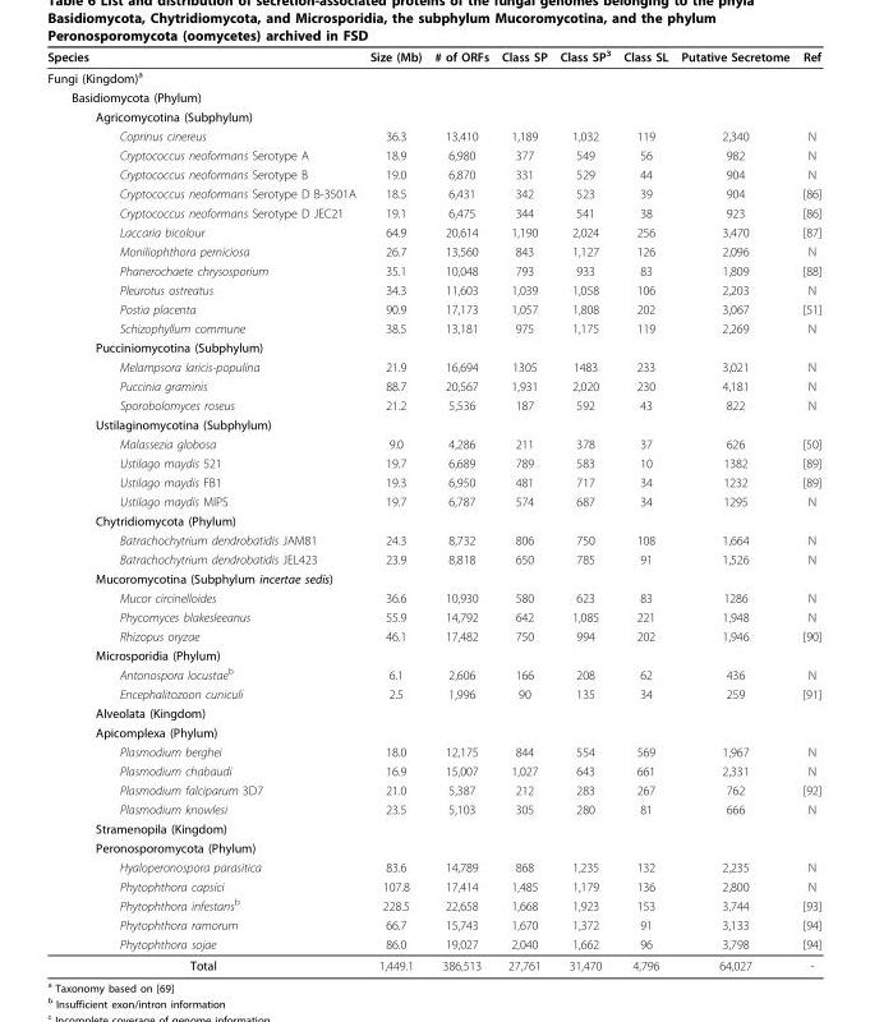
<table><thead><tr><td>Species</td><td>Size (Mb)</td><td># of ORFs</td><td>Class SP</td><td>Class SP<sup>3</sup></td><td>Class SL</td><td>Putative Secretome</td><td>Ref</td></tr></thead><tbody><tr><td colspan="8">Fungi (Kingdom)<sup>a</sup></td></tr><tr><td colspan="8">Basidiomycota (Phylum)</td></tr><tr><td colspan="8">Agricomycotina (Subphylum)</td></tr><tr><td>Coprinus cinereus</td><td>36.3</td><td>13,410</td><td>1,189</td><td>1,032</td><td>119</td><td>2,340</td><td>N</td></tr><tr><td>Cryptococcus neoformans Serotype A</td><td>18.9</td><td>6,980</td><td>377</td><td>549</td><td>56</td><td>982</td><td>N</td></tr><tr><td>Cryptococcus neoformans Serotype B</td><td>19.0</td><td>6,870</td><td>331</td><td>529</td><td>44</td><td>904</td><td>N</td></tr><tr><td>Cryptococcus neoformans Serotype D B-3501A</td><td>18.5</td><td>6,431</td><td>342</td><td>523</td><td>39</td><td>904</td><td>[86]</td></tr><tr><td>Cryptococcus neoformans Serotype D JEC21</td><td>19.1</td><td>6,475</td><td>344</td><td>541</td><td>38</td><td>923</td><td>[86]</td></tr><tr><td>Laccaria bicolour</td><td>64.9</td><td>20,614</td><td>1,190</td><td>2,024</td><td>256</td><td>3,470</td><td>[87]</td></tr><tr><td>Moniliophthora perniciosa</td><td>26.7</td><td>13,560</td><td>843</td><td>1,127</td><td>126</td><td>2,096</td><td>N</td></tr><tr><td>Phanerochaete chrysosporium</td><td>35.1</td><td>10,048</td><td>793</td><td>933</td><td>83</td><td>1,809</td><td>[88]</td></tr><tr><td>Pleurotus ostreatus</td><td>34.3</td><td>11,603</td><td>1,039</td><td>1,058</td><td>106</td><td>2,203</td><td>N</td></tr><tr><td>Postia placenta</td><td>90.9</td><td>17,173</td><td>1,057</td><td>1,808</td><td>202</td><td>3,067</td><td>[51]</td></tr><tr><td>Schizophyllum commune</td><td>38.5</td><td>13,181</td><td>975</td><td>1,175</td><td>119</td><td>2,269</td><td>N</td></tr><tr><td colspan="8">Pucciniomycotina (Subphylum)</td></tr><tr><td>Melampsora laricis-populina</td><td>21.9</td><td>16,694</td><td>1305</td><td>1483</td><td>233</td><td>3,021</td><td>N</td></tr><tr><td>Puccinia graminis</td><td>88.7</td><td>20,567</td><td>1,931</td><td>2,020</td><td>230</td><td>4,181</td><td>N</td></tr><tr><td>Sporobolomyces roseus</td><td>21.2</td><td>5,536</td><td>187</td><td>592</td><td>43</td><td>822</td><td>N</td></tr><tr><td colspan="8">Ustilaginomycotina (Subphylum)</td></tr><tr><td>Malassezia globosa</td><td>9.0</td><td>4,286</td><td>211</td><td>378</td><td>37</td><td>626</td><td>[50]</td></tr><tr><td>Ustilago maydis 521</td><td>19.7</td><td>6,689</td><td>789</td><td>583</td><td>10</td><td>1382</td><td>[89]</td></tr><tr><td>Ustilago maydis FB1</td><td>19.3</td><td>6,950</td><td>481</td><td>717</td><td>34</td><td>1232</td><td>[89]</td></tr><tr><td>Ustilago maydis MIPS</td><td>19.7</td><td>6,787</td><td>574</td><td>687</td><td>34</td><td>1295</td><td>N</td></tr><tr><td colspan="8">Chytridiomycota (Phylum)</td></tr><tr><td>Batrachochytrium dendrobatidis JAM81</td><td>24.3</td><td>8,732</td><td>806</td><td>750</td><td>108</td><td>1,664</td><td>N</td></tr><tr><td>Batrachochytrium dendrobatidis JEL423</td><td>23.9</td><td>8,818</td><td>650</td><td>785</td><td>91</td><td>1,526</td><td>N</td></tr><tr><td colspan="8">Mucoromycotina (Subphylum incertae sedis)</td></tr><tr><td>Mucor circinelloides</td><td>36.6</td><td>10,930</td><td>580</td><td>623</td><td>83</td><td>1286</td><td>N</td></tr><tr><td>Phycomyces blakesleeanus</td><td>55.9</td><td>14,792</td><td>642</td><td>1,085</td><td>221</td><td>1,948</td><td>N</td></tr><tr><td>Rhizopus oryzae</td><td>46.1</td><td>17,482</td><td>750</td><td>994</td><td>202</td><td>1,946</td><td>[90]</td></tr><tr><td colspan="8">Microsporidia (Phylum)</td></tr><tr><td>Antonospora locustae<sup>b</sup></td><td>6.1</td><td>2,606</td><td>166</td><td>208</td><td>62</td><td>436</td><td>N</td></tr><tr><td>Encephalitozoon cuniculi</td><td>2.5</td><td>1,996</td><td>90</td><td>135</td><td>34</td><td>259</td><td>[91]</td></tr><tr><td colspan="8">Alveolata (Kingdom)</td></tr><tr><td colspan="8">Apicomplexa (Phylum)</td></tr><tr><td>Plasmodium berghei</td><td>18.0</td><td>12,175</td><td>844</td><td>554</td><td>569</td><td>1,967</td><td>N</td></tr><tr><td>Plasmodium chabaudi</td><td>16.9</td><td>15,007</td><td>1,027</td><td>643</td><td>661</td><td>2,331</td><td>N</td></tr><tr><td>Plasmodium falciparum 3D7</td><td>21.0</td><td>5,387</td><td>212</td><td>283</td><td>267</td><td>762</td><td>[92]</td></tr><tr><td>Plasmodium knowlesi</td><td>23.5</td><td>5,103</td><td>305</td><td>280</td><td>81</td><td>666</td><td>N</td></tr><tr><td colspan="8">Stramenopila (Kingdom)</td></tr><tr><td colspan="8">Peronosporomycota (Phylum)</td></tr><tr><td>Hyaloperonospora parasitica</td><td>83.6</td><td>14,789</td><td>868</td><td>1,235</td><td>132</td><td>2,235</td><td>N</td></tr><tr><td>Phytophthora capsici</td><td>107.8</td><td>17,414</td><td>1,485</td><td>1,179</td><td>136</td><td>2,800</td><td>N</td></tr><tr><td>Phytophthora infestans<sup>b</sup></td><td>228.5</td><td>22,658</td><td>1,668</td><td>1,923</td><td>153</td><td>3,744</td><td>[93]</td></tr><tr><td>Phytophthora ramorum</td><td>66.7</td><td>15,743</td><td>1,670</td><td>1,372</td><td>91</td><td>3,133</td><td>[94]</td></tr><tr><td>Phytophthora sojae</td><td>86.0</td><td>19,027</td><td>2,040</td><td>1,662</td><td>96</td><td>3,798</td><td>[94]</td></tr><tr><td>Total</td><td>1,449.1</td><td>386,513</td><td>27,761</td><td>31,470</td><td>4,796</td><td>64,027</td><td>-</td></tr></tbody></table>